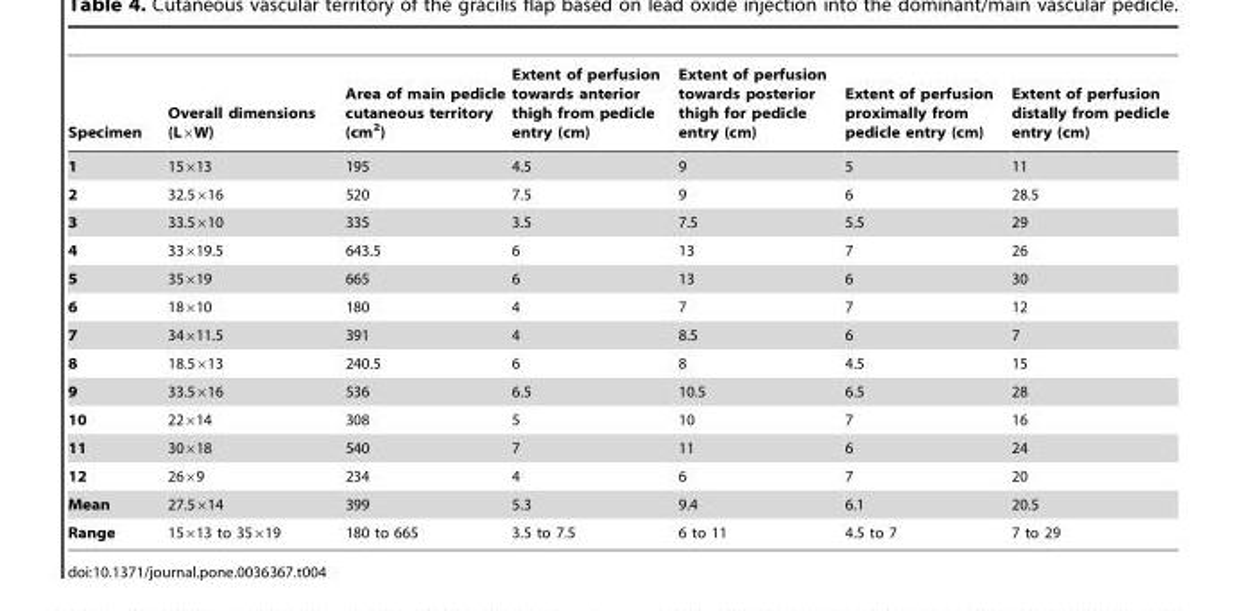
<table><thead><tr><td>Specimen</td><td>Overall dimensions (L×W)</td><td>Area of main pedicle cutaneous territory (cm<sup>2</sup>)</td><td>Extent of perfusion towards anterior thigh from pedicle entry (cm)</td><td>Extent of perfusion towards posterior thigh for pedicle entry (cm)</td><td>Extent of perfusion proximally from pedicle entry (cm)</td><td>Extent of perfusion distally from pedicle entry (cm)</td></tr></thead><tbody><tr><td>1</td><td>15×13</td><td>195</td><td>4.5</td><td>9</td><td>5</td><td>11</td></tr><tr><td>2</td><td>32.5×16</td><td>520</td><td>7.5</td><td>9</td><td>6</td><td>28.5</td></tr><tr><td>3</td><td>33.5×10</td><td>335</td><td>3.5</td><td>7.5</td><td>5.5</td><td>29</td></tr><tr><td>4</td><td>33×19.5</td><td>643.5</td><td>6</td><td>13</td><td>7</td><td>26</td></tr><tr><td>5</td><td>35×19</td><td>665</td><td>6</td><td>13</td><td>6</td><td>30</td></tr><tr><td>6</td><td>18×10</td><td>180</td><td>4</td><td>7</td><td>7</td><td>12</td></tr><tr><td>7</td><td>34×11.5</td><td>391</td><td>4</td><td>8.5</td><td>6</td><td>7</td></tr><tr><td>8</td><td>18.5×13</td><td>240.5</td><td>6</td><td>8</td><td>4.5</td><td>15</td></tr><tr><td>9</td><td>33.5×16</td><td>536</td><td>6.5</td><td>10.5</td><td>6.5</td><td>28</td></tr><tr><td>10</td><td>22×14</td><td>308</td><td>5</td><td>10</td><td>7</td><td>16</td></tr><tr><td>11</td><td>30×18</td><td>540</td><td>7</td><td>11</td><td>6</td><td>24</td></tr><tr><td>12</td><td>26×9</td><td>234</td><td>4</td><td>6</td><td>7</td><td>20</td></tr><tr><td>Mean</td><td>27.5×14</td><td>399</td><td>5.3</td><td>9.4</td><td>6.1</td><td>20.5</td></tr><tr><td>Range</td><td>15×13 to 35×19</td><td>180 to 665</td><td>3.5 to 7.5</td><td>6 to 11</td><td>4.5 to 7</td><td>7 to 29</td></tr></tbody></table>